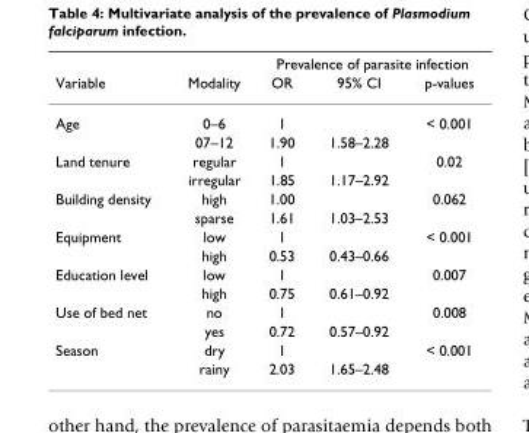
<table><thead><tr><td rowspan="2">Variable</td><td rowspan="2">Modality</td><td colspan="3">Prevalence of parasite infection</td></tr><tr><td>OR</td><td>95% CI</td><td>p-values</td></tr></thead><tbody><tr><td rowspan="2">Age</td><td>0–6</td><td>1</td><td></td><td>&lt; 0.001</td></tr><tr><td>07–12</td><td>1.90</td><td>1.58–2.28</td><td></td></tr><tr><td rowspan="2">Land tenure</td><td>regular</td><td>1</td><td></td><td>0.02</td></tr><tr><td>irregular</td><td>1.85</td><td>1.17–2.92</td><td></td></tr><tr><td rowspan="2">Building density</td><td>high</td><td>1.00</td><td></td><td>0.062</td></tr><tr><td>sparse</td><td>1.61</td><td>1.03–2.53</td><td></td></tr><tr><td rowspan="2">Equipment</td><td>low</td><td>1</td><td></td><td>&lt; 0.001</td></tr><tr><td>high</td><td>0.53</td><td>0.43–0.66</td><td></td></tr><tr><td rowspan="2">Education level</td><td>low</td><td>1</td><td></td><td>0.007</td></tr><tr><td>high</td><td>0.75</td><td>0.61–0.92</td><td></td></tr><tr><td rowspan="2">Use of bed net</td><td>no</td><td>1</td><td></td><td>0.008</td></tr><tr><td>yes</td><td>0.72</td><td>0.57–0.92</td><td></td></tr><tr><td rowspan="2">Season</td><td>dry</td><td>1</td><td></td><td>&lt; 0.001</td></tr><tr><td>rainy</td><td>2.03</td><td>1.65–2.48</td><td></td></tr></tbody></table>